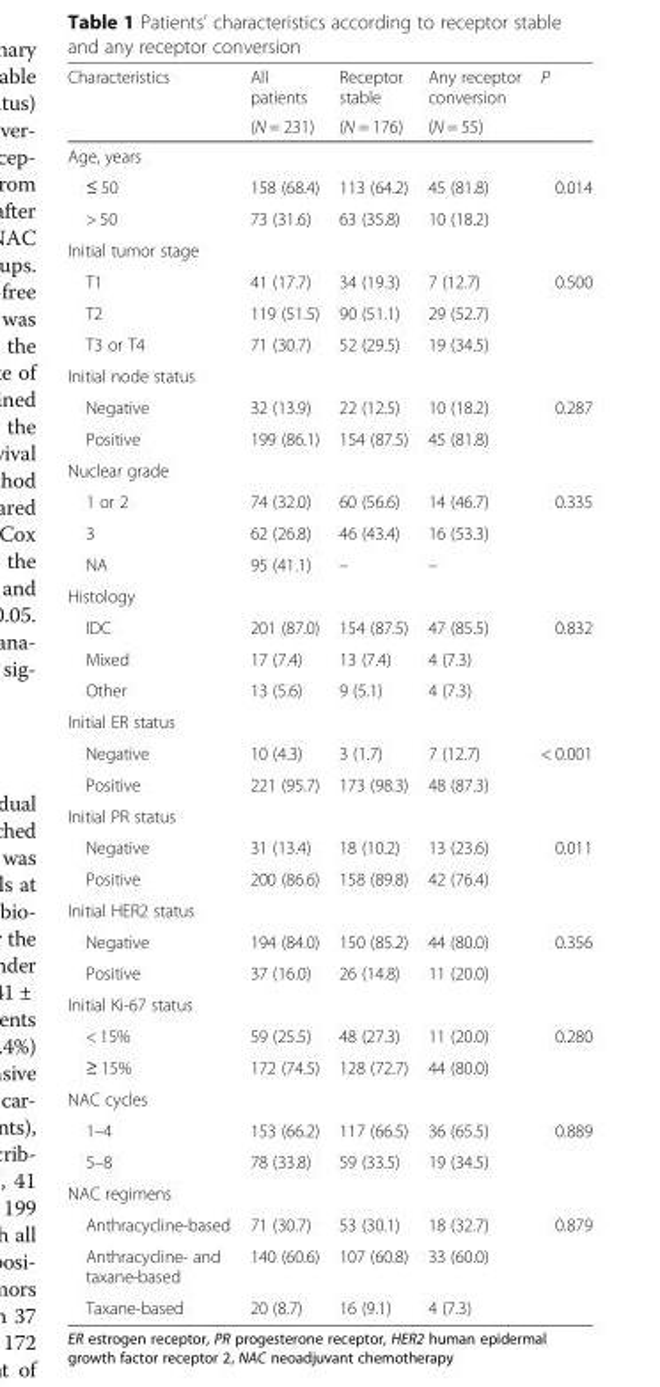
<table><thead><tr><td rowspan="2">Characteristics</td><td rowspan="2">All patients (N = 231)</td><td rowspan="2">Receptor stable (N = 176)</td><td rowspan="2">Any receptor conversion (N = 55)</td><td rowspan="2">P</td></tr><tr></tr></thead><tbody><tr><td colspan="5">Age, years</td></tr><tr><td>≤ 50</td><td>158 (68.4)</td><td>113 (64.2)</td><td>45 (81.8)</td><td rowspan="2">0.014</td></tr><tr><td>&gt; 50</td><td>73 (31.6)</td><td>63 (35.8)</td><td>10 (18.2)</td></tr><tr><td colspan="5">Initial tumor stage</td></tr><tr><td>T1</td><td>41 (17.7)</td><td>34 (19.3)</td><td>7 (12.7)</td><td>0.500</td></tr><tr><td>T2</td><td>119 (51.5)</td><td>90 (51.1)</td><td>29 (52.7)</td><td></td></tr><tr><td>T3 or T4</td><td>71 (30.7)</td><td>52 (29.5)</td><td>19 (34.5)</td><td></td></tr><tr><td colspan="5">Initial node status</td></tr><tr><td>Negative</td><td>32 (13.9)</td><td>22 (12.5)</td><td>10 (18.2)</td><td rowspan="2">0.287</td></tr><tr><td>Positive</td><td>199 (86.1)</td><td>154 (87.5)</td><td>45 (81.8)</td></tr><tr><td colspan="5">Nuclear grade</td></tr><tr><td>1 or 2</td><td>74 (32.0)</td><td>60 (56.6)</td><td>14 (46.7)</td><td rowspan="3">0.335</td></tr><tr><td>3</td><td>62 (26.8)</td><td>46 (43.4)</td><td>16 (53.3)</td></tr><tr><td>NA</td><td>95 (41.1)</td><td>–</td><td>–</td></tr><tr><td colspan="5">Histology</td></tr><tr><td>IDC</td><td>201 (87.0)</td><td>154 (87.5)</td><td>47 (85.5)</td><td rowspan="3">0.832</td></tr><tr><td>Mixed</td><td>17 (7.4)</td><td>13 (7.4)</td><td>4 (7.3)</td></tr><tr><td>Other</td><td>13 (5.6)</td><td>9 (5.1)</td><td>4 (7.3)</td></tr><tr><td colspan="5">Initial ER status</td></tr><tr><td>Negative</td><td>10 (4.3)</td><td>3 (1.7)</td><td>7 (12.7)</td><td rowspan="2">&lt; 0.001</td></tr><tr><td>Positive</td><td>221 (95.7)</td><td>173 (98.3)</td><td>48 (87.3)</td></tr><tr><td colspan="5">Initial PR status</td></tr><tr><td>Negative</td><td>31 (13.4)</td><td>18 (10.2)</td><td>13 (23.6)</td><td rowspan="2">0.011</td></tr><tr><td>Positive</td><td>200 (86.6)</td><td>158 (89.8)</td><td>42 (76.4)</td></tr><tr><td colspan="5">Initial HER2 status</td></tr><tr><td>Negative</td><td>194 (84.0)</td><td>150 (85.2)</td><td>44 (80.0)</td><td>0.356</td></tr><tr><td>Positive</td><td>37 (16.0)</td><td>26 (14.8)</td><td>11 (20.0)</td><td></td></tr><tr><td colspan="5">Initial Ki-67 status</td></tr><tr><td>&lt; 15%</td><td>59 (25.5)</td><td>48 (27.3)</td><td>11 (20.0)</td><td rowspan="2">0.280</td></tr><tr><td>≥ 15%</td><td>172 (74.5)</td><td>128 (72.7)</td><td>44 (80.0)</td></tr><tr><td colspan="5">NAC cycles</td></tr><tr><td>1–4</td><td>153 (66.2)</td><td>117 (66.5)</td><td>36 (65.5)</td><td rowspan="2">0.889</td></tr><tr><td>5–8</td><td>78 (33.8)</td><td>59 (33.5)</td><td>19 (34.5)</td></tr><tr><td colspan="5">NAC regimens</td></tr><tr><td>Anthracycline-based</td><td>71 (30.7)</td><td>53 (30.1)</td><td>18 (32.7)</td><td rowspan="3">0.879</td></tr><tr><td>Anthracycline- and taxane-based</td><td>140 (60.6)</td><td>107 (60.8)</td><td>33 (60.0)</td></tr><tr><td>Taxane-based</td><td>20 (8.7)</td><td>16 (9.1)</td><td>4 (7.3)</td></tr></tbody></table>